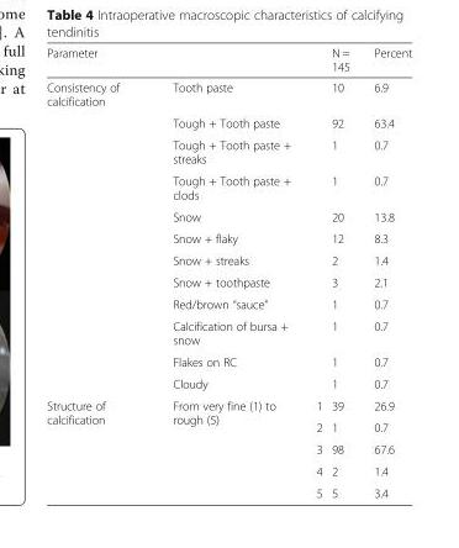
<table><thead><tr><td colspan="2">Parameter</td><td rowspan="2"></td><td rowspan="2">N = 145 10</td><td rowspan="2">Percent 6.9</td></tr><tr><td>Consistency of calcification</td><td>Tooth paste</td></tr></thead><tbody><tr><td></td><td>Tough + Tooth paste</td><td></td><td>92</td><td>63.4</td></tr><tr><td></td><td>Tough + Tooth paste + streaks</td><td></td><td>1</td><td>0.7</td></tr><tr><td></td><td>Tough + Tooth paste + clods</td><td></td><td>1</td><td>0.7</td></tr><tr><td></td><td>Snow</td><td></td><td>20</td><td>13.8</td></tr><tr><td></td><td>Snow + flaky</td><td></td><td>12</td><td>8.3</td></tr><tr><td></td><td>Snow + streaks</td><td></td><td>2</td><td>1.4</td></tr><tr><td></td><td>Snow + toothpaste</td><td></td><td>3</td><td>2.1</td></tr><tr><td></td><td>Red/brown “sauce”</td><td></td><td>1</td><td>0.7</td></tr><tr><td></td><td>Calcification of bursa + snow</td><td></td><td>1</td><td>0.7</td></tr><tr><td></td><td>Flakes on RC</td><td></td><td>1</td><td>0.7</td></tr><tr><td></td><td>Cloudy</td><td></td><td>1</td><td>0.7</td></tr><tr><td rowspan="5">Structure of calcification</td><td rowspan="5">From very fine (1) to rough (5)</td><td>1</td><td>39</td><td>26.9</td></tr><tr><td>2</td><td>1</td><td>0.7</td></tr><tr><td>3</td><td>98</td><td>67.6</td></tr><tr><td>4</td><td>2</td><td>1.4</td></tr><tr><td>5</td><td>5</td><td>3.4</td></tr></tbody></table>